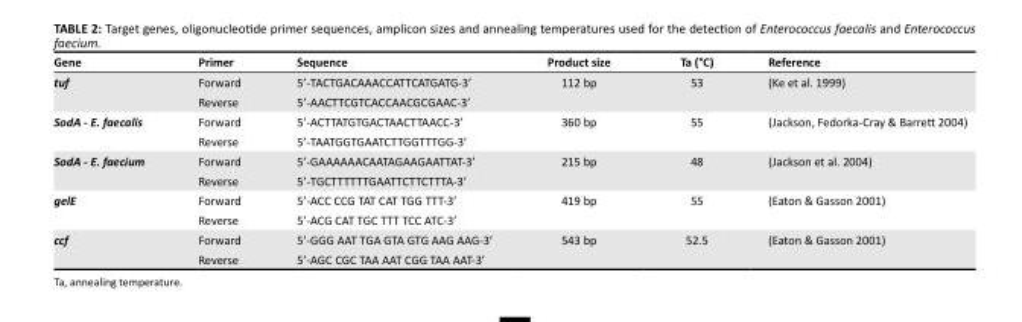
<table><thead><tr><td>Gene</td><td>Primer</td><td>Sequence</td><td>Product size</td><td>Ta (°C)</td><td>Reference</td></tr></thead><tbody><tr><td rowspan="2">tuf</td><td>Forward</td><td>5’-TACTGACAAACCATTCATGATG-3’</td><td rowspan="2">112 bp</td><td rowspan="2">53</td><td rowspan="2">(Ke et al. 1999)</td></tr><tr><td>Reverse</td><td>5’-AACTTCGTCACCAACGCGAAC-3’</td></tr><tr><td rowspan="2">SodA - E. faecalis</td><td>Forward</td><td>5’-ACTTATGTGACTAACTTAACC-3’</td><td rowspan="2">360 bp</td><td rowspan="2">55</td><td rowspan="2">(Jackson, Fedorka-Cray &amp; Barrett 2004)</td></tr><tr><td>Reverse</td><td>5’-TAATGGTGAATCTTGGTTTGG-3’</td></tr><tr><td rowspan="2">SodA - E. faecium</td><td>Forward</td><td>5’-GAAAAAACAATAGAAGAATTAT-3’</td><td rowspan="2">215 bp</td><td rowspan="2">48</td><td rowspan="2">(Jackson et al. 2004)</td></tr><tr><td>Reverse</td><td>5’-TGCTTTTTTGAATTCTTCTTTA-3’</td></tr><tr><td rowspan="2">gelE</td><td>Forward</td><td>5’-ACC CCG TAT CAT TGG TTT-3’</td><td rowspan="2">419 bp</td><td rowspan="2">55</td><td rowspan="2">(Eaton &amp; Gasson 2001)</td></tr><tr><td>Reverse</td><td>5’-ACG CAT TGC TTT TCC ATC-3’</td></tr><tr><td rowspan="2">ccf</td><td>Forward</td><td>5’-GGG AAT TGA GTA GTG AAG AAG-3’</td><td rowspan="2">543 bp</td><td rowspan="2">52.5</td><td rowspan="2">(Eaton &amp; Gasson 2001)</td></tr><tr><td>Reverse</td><td>5’-AGC CGC TAA AAT CGG TAA AAT-3’</td></tr></tbody></table>